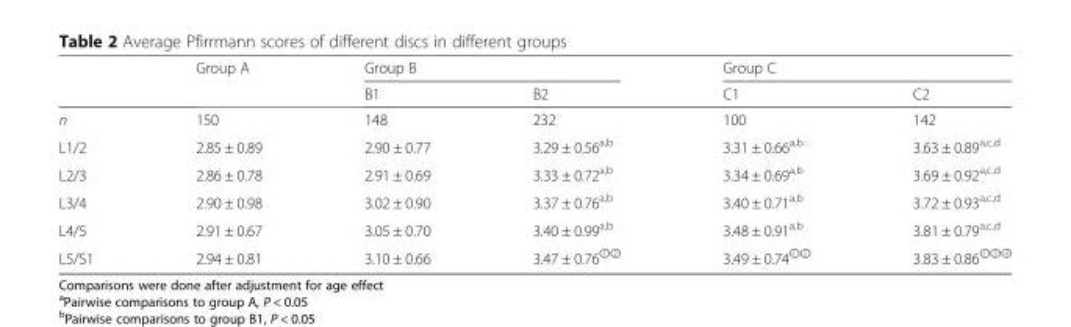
<table><thead><tr><td rowspan="2"></td><td rowspan="2">Group A</td><td colspan="2">Group B</td><td colspan="2">Group C</td></tr><tr><td>B1</td><td>B2</td><td>C1</td><td>C2</td></tr></thead><tbody><tr><td>n</td><td>150</td><td>148</td><td>232</td><td>100</td><td>142</td></tr><tr><td>L1/2</td><td>2.85 ± 0.89</td><td>2.90 ± 0.77</td><td>3.29 ± 0.56<sup>a,b</sup></td><td>3.31 ± 0.66<sup>a,b</sup></td><td>3.63 ± 0.89<sup>a,c,d</sup></td></tr><tr><td>L2/3</td><td>2.86 ± 0.78</td><td>2.91 ± 0.69</td><td>3.33 ± 0.72<sup>a,b</sup></td><td>3.34 ± 0.69<sup>a,b</sup></td><td>3.69 ± 0.92<sup>a,c,d</sup></td></tr><tr><td>L3/4</td><td>2.90 ± 0.98</td><td>3.02 ± 0.90</td><td>3.37 ± 0.76<sup>a,b</sup></td><td>3.40 ± 0.71<sup>a,b</sup></td><td>3.72 ± 0.93<sup>a,c,d</sup></td></tr><tr><td>L4/5</td><td>2.91 ± 0.67</td><td>3.05 ± 0.70</td><td>3.40 ± 0.99<sup>a,b</sup></td><td>3.48 ± 0.91<sup>a,b</sup></td><td>3.81 ± 0.79<sup>a,c,d</sup></td></tr><tr><td>L5/S1</td><td>2.94 ± 0.81</td><td>3.10 ± 0.66</td><td>3.47 ± 0.76<sup>①②</sup></td><td>3.49 ± 0.74<sup>①②</sup></td><td>3.83 ± 0.86<sup>①③④</sup></td></tr></tbody></table>